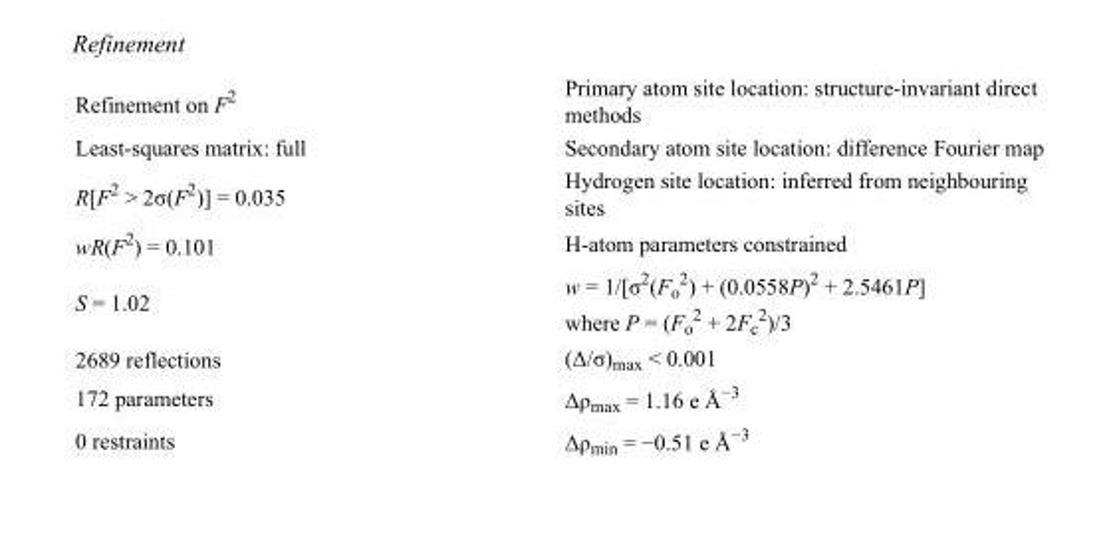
<table><tbody><tr><td>Refinement on F<sup>2</sup></td><td>Primary atom site location: structure-invariant direct methods</td></tr><tr><td>Least-squares matrix: full</td><td>Secondary atom site location: difference Fourier map</td></tr><tr><td>R[F<sup>2</sup> &gt; 2σ(F<sup>2</sup>)] = 0.035</td><td>Hydrogen site location: inferred from neighbouring sites</td></tr><tr><td>wR(F<sup>2</sup>) = 0.101</td><td>H-atom parameters constrained</td></tr><tr><td>S = 1.02</td><td>w = 1/[σ<sup>2</sup>(F<sub>o</sub> <sup>2</sup>) + (0.0558P)<sup>2</sup> + 2.5461P] where P = (F<sub>o</sub> <sup>2</sup> + 2F<sub>c</sub> <sup>2</sup>)/3</td></tr><tr><td>2689 reflections</td><td>(Δ/σ)<sub>max</sub> &lt; 0.001</td></tr><tr><td>172 parameters</td><td>Δρ<sub>max</sub> = 1.16 e Å<sup>−3</sup></td></tr><tr><td>0 restraints</td><td>Δρ<sub>min</sub> = −0.51 e Å<sup>−3</sup></td></tr></tbody></table>